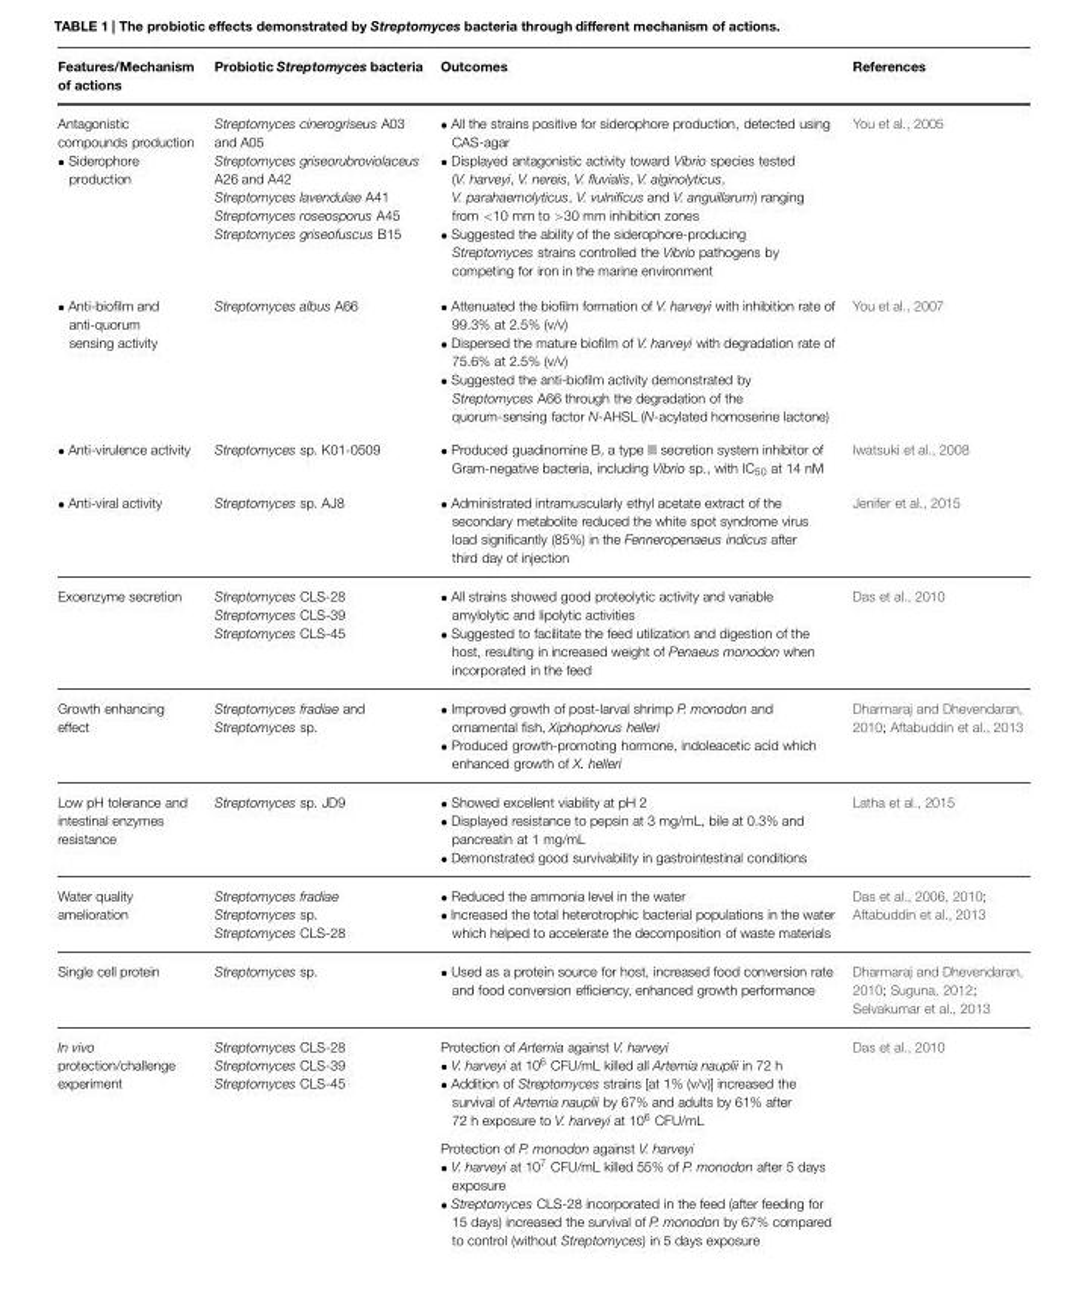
<table><thead><tr><td>Features/Mechanism of actions</td><td>Probiotic Streptomyces bacteria</td><td>Outcomes</td><td>References</td></tr></thead><tbody><tr><td>Antagonistic compounds production • Siderophore production</td><td>Streptomyces cinerogriseus A03 and A05 Streptomyces griseorubroviolaceus A26 and A42 Streptomyces lavendulae A41 Streptomyces roseosporus A45 Streptomyces griseofuscus B15</td><td>• All the strains positive for siderophore production, detected using CAS-agar • Displayed antagonistic activity toward Vibrio species tested (V. harveyi, V. nereis, V. fluvialis, V. alginolyticus, V. parahaemolyticus, V. vulnificus and V. anguillarum) ranging from &lt;10 mm to &gt;30 mm inhibition zones • Suggested the ability of the siderophore-producing Streptomyces strains controlled the Vibrio pathogens by competing for iron in the marine environment</td><td>You et al., 2005</td></tr><tr><td>• Anti-biofilm and anti-quorum sensing activity</td><td>Streptomyces albus A66</td><td>• Attenuated the biofilm formation of V. harveyi with inhibition rate of 99.3% at 2.5% (v/v) • Dispersed the mature biofilm of V. harveyi with degradation rate of 75.6% at 2.5% (v/v) • Suggested the anti-biofilm activity demonstrated by Streptomyces A66 through the degradation of the quorum-sensing factor N-AHSL (N-acylated homoserine lactone)</td><td>You et al., 2007</td></tr><tr><td>• Anti-virulence activity</td><td>Streptomyces sp. K01-0509</td><td>• Produced guadinomine B, a type III secretion system inhibitor of Gram-negative bacteria, including Vibrio sp., with IC<sub>50</sub> at 14 nM</td><td>Iwatsuki et al., 2008</td></tr><tr><td>• Anti-viral activity</td><td>Streptomyces sp. AJ8</td><td>• Administrated intramuscularly ethyl acetate extract of the secondary metabolite reduced the white spot syndrome virus load significantly (85%) in the Fenneropenaeus indicus after third day of injection</td><td>Jenifer et al., 2015</td></tr><tr><td>Exoenzyme secretion</td><td>Streptomyces CLS-28 Streptomyces CLS-39 Streptomyces CLS-45</td><td>• All strains showed good proteolytic activity and variable amylolytic and lipolytic activities • Suggested to facilitate the feed utilization and digestion of the host, resulting in increased weight of Penaeus monodon when incorporated in the feed</td><td>Das et al., 2010</td></tr><tr><td>Growth enhancing effect</td><td>Streptomyces fradiae and Streptomyces sp.</td><td>• Improved growth of post-larval shrimp P. monodon and ornamental fish, Xiphophorus helleri • Produced growth-promoting hormone, indoleacetic acid which enhanced growth of X. helleri</td><td>Dharmaraj and Dhevendaran, 2010; Aftabuddin et al., 2013</td></tr><tr><td>Low pH tolerance and intestinal enzymes resistance</td><td>Streptomyces sp. JD9</td><td>• Showed excellent viability at pH 2 • Displayed resistance to pepsin at 3 mg/mL, bile at 0.3% and pancreatin at 1 mg/mL • Demonstrated good survivability in gastrointestinal conditions</td><td>Latha et al., 2015</td></tr><tr><td>Water quality amelioration</td><td>Streptomyces fradiae Streptomyces sp. Streptomyces CLS-28</td><td>• Reduced the ammonia level in the water • Increased the total heterotrophic bacterial populations in the water which helped to accelerate the decomposition of waste materials</td><td>Das et al., 2006, 2010; Aftabuddin et al., 2013</td></tr><tr><td>Single cell protein</td><td>Streptomyces sp.</td><td>• Used as a protein source for host, increased food conversion rate and food conversion efficiency, enhanced growth performance</td><td>Dharmaraj and Dhevendaran, 2010; Suguna, 2012; Selvakumar et al., 2013</td></tr><tr><td>In vivo protection/challenge experiment</td><td>Streptomyces CLS-28 Streptomyces CLS-39 Streptomyces CLS-45</td><td>Protection of Artemia against V. harveyi • V. harveyi at 10<sup>6</sup> CFU/mL killed all Artemia nauplii in 72 h • Addition of Streptomyces strains [at 1% (v/v)] increased the survival of Artemia nauplii by 67% and adults by 61% after 72 h exposure to V. harveyi at 10<sup>6</sup> CFU/mL Protection of P. monodon against V. harveyi • V. harveyi at 10<sup>7</sup> CFU/mL killed 55% of P. monodon after 5 days exposure • Streptomyces CLS-28 incorporated in the feed (after feeding for 15 days) increased the survival of P. monodon by 67% compared to control (without Streptomyces) in 5 days exposure</td><td>Das et al., 2010</td></tr></tbody></table>